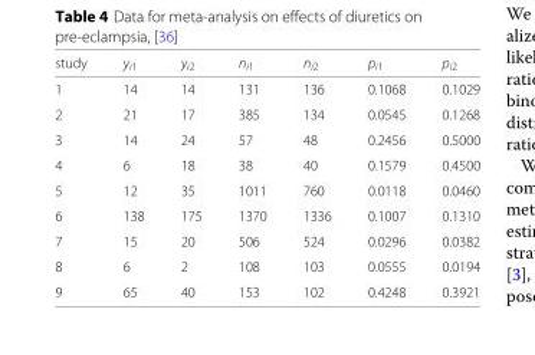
<table><thead><tr><td>study</td><td>y<sub>i1</sub></td><td>y<sub>i2</sub></td><td>n<sub>i1</sub></td><td>n<sub>i2</sub></td><td>p<sub>i1</sub></td><td>p<sub>i2</sub></td></tr></thead><tbody><tr><td>1</td><td>14</td><td>14</td><td>131</td><td>136</td><td>0.1068</td><td>0.1029</td></tr><tr><td>2</td><td>21</td><td>17</td><td>385</td><td>134</td><td>0.0545</td><td>0.1268</td></tr><tr><td>3</td><td>14</td><td>24</td><td>57</td><td>48</td><td>0.2456</td><td>0.5000</td></tr><tr><td>4</td><td>6</td><td>18</td><td>38</td><td>40</td><td>0.1579</td><td>0.4500</td></tr><tr><td>5</td><td>12</td><td>35</td><td>1011</td><td>760</td><td>0.0118</td><td>0.0460</td></tr><tr><td>6</td><td>138</td><td>175</td><td>1370</td><td>1336</td><td>0.1007</td><td>0.1310</td></tr><tr><td>7</td><td>15</td><td>20</td><td>506</td><td>524</td><td>0.0296</td><td>0.0382</td></tr><tr><td>8</td><td>6</td><td>2</td><td>108</td><td>103</td><td>0.0555</td><td>0.0194</td></tr><tr><td>9</td><td>65</td><td>40</td><td>153</td><td>102</td><td>0.4248</td><td>0.3921</td></tr></tbody></table>